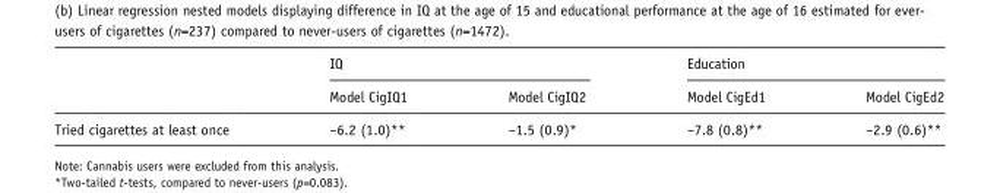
<table><thead><tr><td rowspan="2"></td><td colspan="2">IQ</td><td colspan="2">Education</td></tr><tr><td>Model CigIQ1</td><td>Model CigIQ2</td><td>Model CigEd1</td><td>Model CigEd2</td></tr></thead><tbody><tr><td>Tried cigarettes at least once</td><td>–6.2 (1.0)**</td><td>–1.5 (0.9)*</td><td>–7.8 (0.8)**</td><td>–2.9 (0.6)**</td></tr></tbody></table>